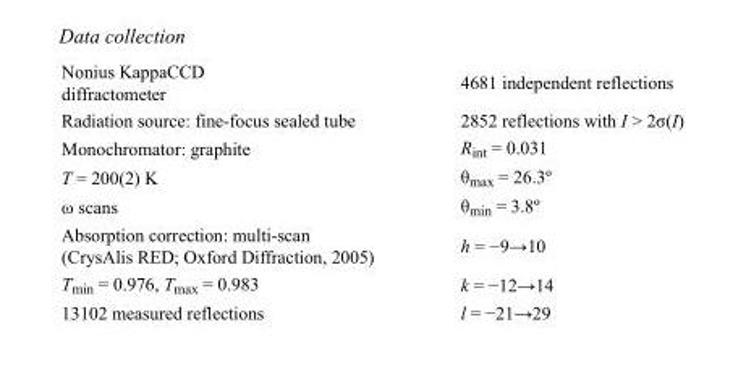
<table><tbody><tr><td>Nonius KappaCCD diffractometer</td><td>4681 independent reflections</td></tr><tr><td>Radiation source: fine-focus sealed tube</td><td>2852 reflections with I &gt; 2σ(I)</td></tr><tr><td>Monochromator: graphite</td><td>R<sub>int</sub> = 0.031</td></tr><tr><td>T = 200(2) K</td><td>θ<sub>max</sub> = 26.3º</td></tr><tr><td>ω scans</td><td>θ<sub>min</sub> = 3.8º</td></tr><tr><td>Absorption correction: multi-scan (CrysAlis RED; Oxford Diffraction, 2005)</td><td>h = −9→10</td></tr><tr><td>T<sub>min</sub> = 0.976, T<sub>max</sub> = 0.983</td><td>k = −12→14</td></tr><tr><td>13102 measured reflections</td><td>l = −21→29</td></tr></tbody></table>